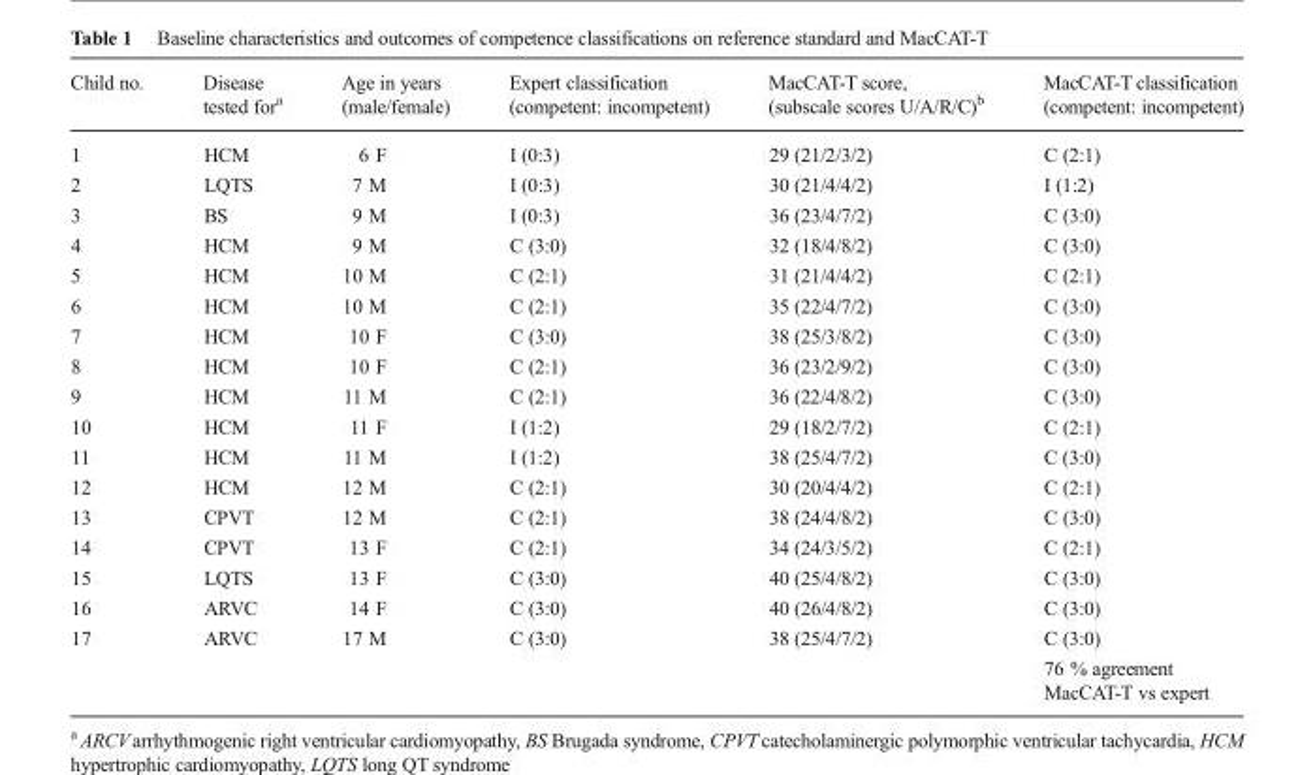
<table><thead><tr><td>Child no.</td><td>Disease tested for<sup>a</sup></td><td>Age in years (male/female)</td><td>Expert classification (competent: incompetent)</td><td>MacCAT-T score, (subscale scores U/A/R/C)<sup>b</sup></td><td>MacCAT-T classification (competent: incompetent)</td></tr></thead><tbody><tr><td>1</td><td>HCM</td><td>6 F</td><td>I (0:3)</td><td>29 (21/2/3/2)</td><td>C (2:1)</td></tr><tr><td>2</td><td>LQTS</td><td>7 M</td><td>I (0:3)</td><td>30 (21/4/4/2)</td><td>I (1:2)</td></tr><tr><td>3</td><td>BS</td><td>9 M</td><td>I (0:3)</td><td>36 (23/4/7/2)</td><td>C (3:0)</td></tr><tr><td>4</td><td>HCM</td><td>9 M</td><td>C (3:0)</td><td>32 (18/4/8/2)</td><td>C (3:0)</td></tr><tr><td>5</td><td>HCM</td><td>10 M</td><td>C (2:1)</td><td>31 (21/4/4/2)</td><td>C (2:1)</td></tr><tr><td>6</td><td>HCM</td><td>10 M</td><td>C (2:1)</td><td>35 (22/4/7/2)</td><td>C (3:0)</td></tr><tr><td>7</td><td>HCM</td><td>10 F</td><td>C (3:0)</td><td>38 (25/3/8/2)</td><td>C (3:0)</td></tr><tr><td>8</td><td>HCM</td><td>10 F</td><td>C (2:1)</td><td>36 (23/2/9/2)</td><td>C (3:0)</td></tr><tr><td>9</td><td>HCM</td><td>11 M</td><td>C (2:1)</td><td>36 (22/4/8/2)</td><td>C (3:0)</td></tr><tr><td>10</td><td>HCM</td><td>11 F</td><td>I (1:2)</td><td>29 (18/2/7/2)</td><td>C (2:1)</td></tr><tr><td>11</td><td>HCM</td><td>11 M</td><td>I (1:2)</td><td>38 (25/4/7/2)</td><td>C (3:0)</td></tr><tr><td>12</td><td>HCM</td><td>12 M</td><td>C (2:1)</td><td>30 (20/4/4/2)</td><td>C (2:1)</td></tr><tr><td>13</td><td>CPVT</td><td>12 M</td><td>C (2:1)</td><td>38 (24/4/8/2)</td><td>C (3:0)</td></tr><tr><td>14</td><td>CPVT</td><td>13 F</td><td>C (2:1)</td><td>34 (24/3/5/2)</td><td>C (2:1)</td></tr><tr><td>15</td><td>LQTS</td><td>13 F</td><td>C (3:0)</td><td>40 (25/4/8/2)</td><td>C (3:0)</td></tr><tr><td>16</td><td>ARVC</td><td>14 F</td><td>C (3:0)</td><td>40 (26/4/8/2)</td><td>C (3:0)</td></tr><tr><td rowspan="2">17</td><td>ARVC</td><td>17 M</td><td>C (3:0)</td><td>38 (25/4/7/2)</td><td>C (3:0)</td></tr><tr><td></td><td></td><td></td><td></td><td>76 % agreement MacCAT-T vs expert</td></tr></tbody></table>